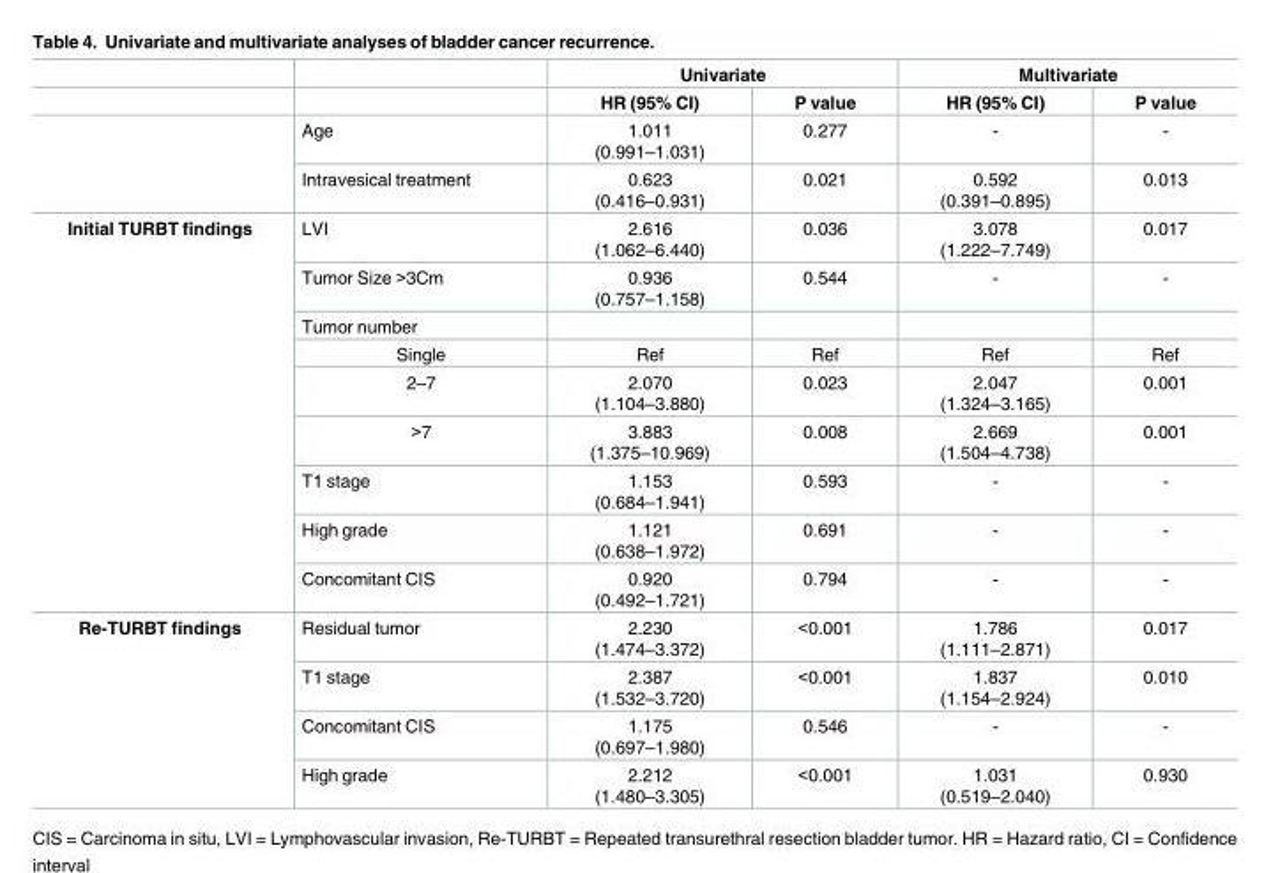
<table><thead><tr><td rowspan="2"></td><td rowspan="2"></td><td colspan="2">Univariate</td><td colspan="2">Multivariate</td></tr><tr><td>HR (95% CI)</td><td>P value</td><td>HR (95% CI)</td><td>P value</td></tr></thead><tbody><tr><td rowspan="2"></td><td>Age</td><td>1.011 (0.991–1.031)</td><td>0.277</td><td>-</td><td>-</td></tr><tr><td>Intravesical treatment</td><td>0.623 (0.416–0.931)</td><td>0.021</td><td>0.592 (0.391–0.895)</td><td>0.013</td></tr><tr><td rowspan="9">Initial TURBT findings</td><td>LVI</td><td>2.616 (1.062–6.440)</td><td>0.036</td><td>3.078 (1.222–7.749)</td><td>0.017</td></tr><tr><td>Tumor Size &gt;3Cm</td><td>0.936 (0.757–1.158)</td><td>0.544</td><td>-</td><td>-</td></tr><tr><td>Tumor number</td><td></td><td></td><td></td><td></td></tr><tr><td>Single</td><td>Ref</td><td>Ref</td><td>Ref</td><td>Ref</td></tr><tr><td>2–7</td><td>2.070 (1.104–3.880)</td><td>0.023</td><td>2.047 (1.324–3.165)</td><td>0.001</td></tr><tr><td>&gt;7</td><td>3.883 (1.375–10.969)</td><td>0.008</td><td>2.669 (1.504–4.738)</td><td>0.001</td></tr><tr><td>T1 stage</td><td>1.153 (0.684–1.941)</td><td>0.593</td><td>-</td><td>-</td></tr><tr><td>High grade</td><td>1.121 (0.638–1.972)</td><td>0.691</td><td>-</td><td>-</td></tr><tr><td>Concomitant CIS</td><td>0.920 (0.492–1.721)</td><td>0.794</td><td>-</td><td>-</td></tr><tr><td rowspan="4">Re-TURBT findings</td><td>Residual tumor</td><td>2.230 (1.474–3.372)</td><td>&lt;0.001</td><td>1.786 (1.111–2.871)</td><td>0.017</td></tr><tr><td>T1 stage</td><td>2.387 (1.532–3.720)</td><td>&lt;0.001</td><td>1.837 (1.154–2.924)</td><td>0.010</td></tr><tr><td>Concomitant CIS</td><td>1.175 (0.697–1.980)</td><td>0.546</td><td>-</td><td>-</td></tr><tr><td>High grade</td><td>2.212 (1.480–3.305)</td><td>&lt;0.001</td><td>1.031 (0.519–2.040)</td><td>0.930</td></tr></tbody></table>